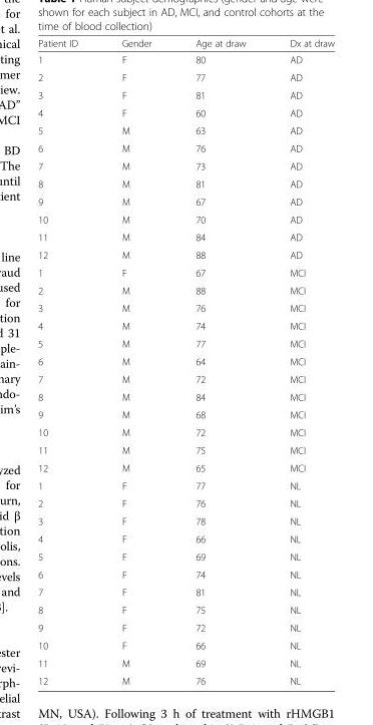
<table><thead><tr><td>Patient ID</td><td>Gender</td><td>Age at draw</td><td>Dx at draw</td></tr></thead><tbody><tr><td>1</td><td>F</td><td>80</td><td>AD</td></tr><tr><td>2</td><td>F</td><td>77</td><td>AD</td></tr><tr><td>3</td><td>F</td><td>81</td><td>AD</td></tr><tr><td>4</td><td>F</td><td>60</td><td>AD</td></tr><tr><td>5</td><td>M</td><td>63</td><td>AD</td></tr><tr><td>6</td><td>M</td><td>76</td><td>AD</td></tr><tr><td>7</td><td>M</td><td>73</td><td>AD</td></tr><tr><td>8</td><td>M</td><td>81</td><td>AD</td></tr><tr><td>9</td><td>M</td><td>67</td><td>AD</td></tr><tr><td>10</td><td>M</td><td>70</td><td>AD</td></tr><tr><td>11</td><td>M</td><td>84</td><td>AD</td></tr><tr><td>12</td><td>M</td><td>88</td><td>AD</td></tr><tr><td>1</td><td>F</td><td>67</td><td>MCI</td></tr><tr><td>2</td><td>M</td><td>88</td><td>MCI</td></tr><tr><td>3</td><td>M</td><td>76</td><td>MCI</td></tr><tr><td>4</td><td>M</td><td>74</td><td>MCI</td></tr><tr><td>5</td><td>M</td><td>77</td><td>MCI</td></tr><tr><td>6</td><td>M</td><td>64</td><td>MCI</td></tr><tr><td>7</td><td>M</td><td>72</td><td>MCI</td></tr><tr><td>8</td><td>M</td><td>84</td><td>MCI</td></tr><tr><td>9</td><td>M</td><td>68</td><td>MCI</td></tr><tr><td>10</td><td>M</td><td>72</td><td>MCI</td></tr><tr><td>11</td><td>M</td><td>75</td><td>MCI</td></tr><tr><td>12</td><td>M</td><td>65</td><td>MCI</td></tr><tr><td>1</td><td>F</td><td>77</td><td>NL</td></tr><tr><td>2</td><td>F</td><td>76</td><td>NL</td></tr><tr><td>3</td><td>F</td><td>78</td><td>NL</td></tr><tr><td>4</td><td>F</td><td>66</td><td>NL</td></tr><tr><td>5</td><td>F</td><td>69</td><td>NL</td></tr><tr><td>6</td><td>F</td><td>74</td><td>NL</td></tr><tr><td>7</td><td>F</td><td>81</td><td>NL</td></tr><tr><td>8</td><td>F</td><td>75</td><td>NL</td></tr><tr><td>9</td><td>F</td><td>72</td><td>NL</td></tr><tr><td>10</td><td>F</td><td>66</td><td>NL</td></tr><tr><td>11</td><td>M</td><td>69</td><td>NL</td></tr><tr><td>12</td><td>M</td><td>76</td><td>NL</td></tr></tbody></table>